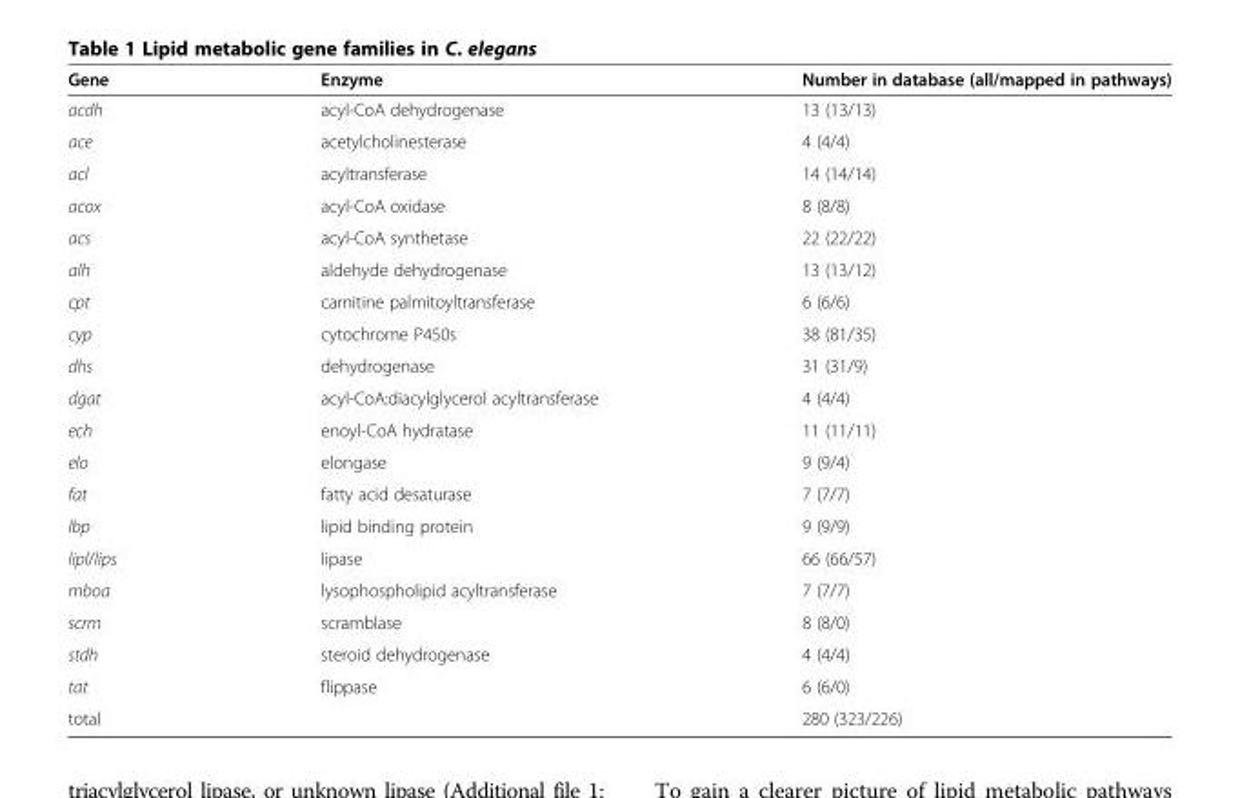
<table><thead><tr><td>Gene</td><td>Enzyme</td><td>Number in database (all/mapped in pathways)</td></tr></thead><tbody><tr><td>acdh</td><td>acyl-CoA dehydrogenase</td><td>13 (13/13)</td></tr><tr><td>ace</td><td>acetylcholinesterase</td><td>4 (4/4)</td></tr><tr><td>acl</td><td>acyltransferase</td><td>14 (14/14)</td></tr><tr><td>acox</td><td>acyl-CoA oxidase</td><td>8 (8/8)</td></tr><tr><td>acs</td><td>acyl-CoA synthetase</td><td>22 (22/22)</td></tr><tr><td>alh</td><td>aldehyde dehydrogenase</td><td>13 (13/12)</td></tr><tr><td>cpt</td><td>carnitine palmitoyltransferase</td><td>6 (6/6)</td></tr><tr><td>cyp</td><td>cytochrome P450s</td><td>38 (81/35)</td></tr><tr><td>dhs</td><td>dehydrogenase</td><td>31 (31/9)</td></tr><tr><td>dgat</td><td>acyl-CoA:diacylglycerol acyltransferase</td><td>4 (4/4)</td></tr><tr><td>ech</td><td>enoyl-CoA hydratase</td><td>11 (11/11)</td></tr><tr><td>elo</td><td>elongase</td><td>9 (9/4)</td></tr><tr><td>fat</td><td>fatty acid desaturase</td><td>7 (7/7)</td></tr><tr><td>lbp</td><td>lipid binding protein</td><td>9 (9/9)</td></tr><tr><td>lipl/lips</td><td>lipase</td><td>66 (66/57)</td></tr><tr><td>mboa</td><td>lysophospholipid acyltransferase</td><td>7 (7/7)</td></tr><tr><td>scrm</td><td>scramblase</td><td>8 (8/0)</td></tr><tr><td>stdh</td><td>steroid dehydrogenase</td><td>4 (4/4)</td></tr><tr><td>tat</td><td>flippase</td><td>6 (6/0)</td></tr><tr><td>total</td><td></td><td>280 (323/226)</td></tr></tbody></table>